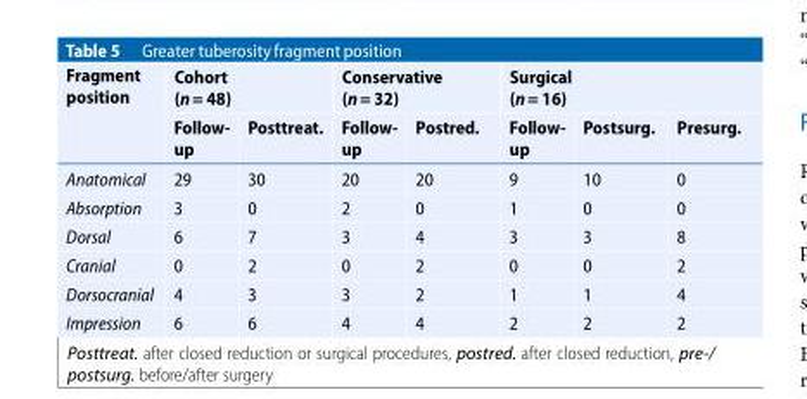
<table><thead><tr><td rowspan="2">Fragment position</td><td colspan="2">Cohort (n= 48)</td><td colspan="2">Conservative (n= 32)</td><td colspan="3">Surgical (n= 16)</td></tr><tr><td>Follow- up</td><td>Posttreat.</td><td>Follow- up</td><td>Postred.</td><td>Follow- up</td><td>Postsurg.</td><td>Presurg.</td></tr></thead><tbody><tr><td>Anatomical</td><td>29</td><td>30</td><td>20</td><td>20</td><td>9</td><td>10</td><td>0</td></tr><tr><td>Absorption</td><td>3</td><td>0</td><td>2</td><td>0</td><td>1</td><td>0</td><td>0</td></tr><tr><td>Dorsal</td><td>6</td><td>7</td><td>3</td><td>4</td><td>3</td><td>3</td><td>8</td></tr><tr><td>Cranial</td><td>0</td><td>2</td><td>0</td><td>2</td><td>0</td><td>0</td><td>2</td></tr><tr><td>Dorsocranial</td><td>4</td><td>3</td><td>3</td><td>2</td><td>1</td><td>1</td><td>4</td></tr><tr><td>Impression</td><td>6</td><td>6</td><td>4</td><td>4</td><td>2</td><td>2</td><td>2</td></tr></tbody></table>